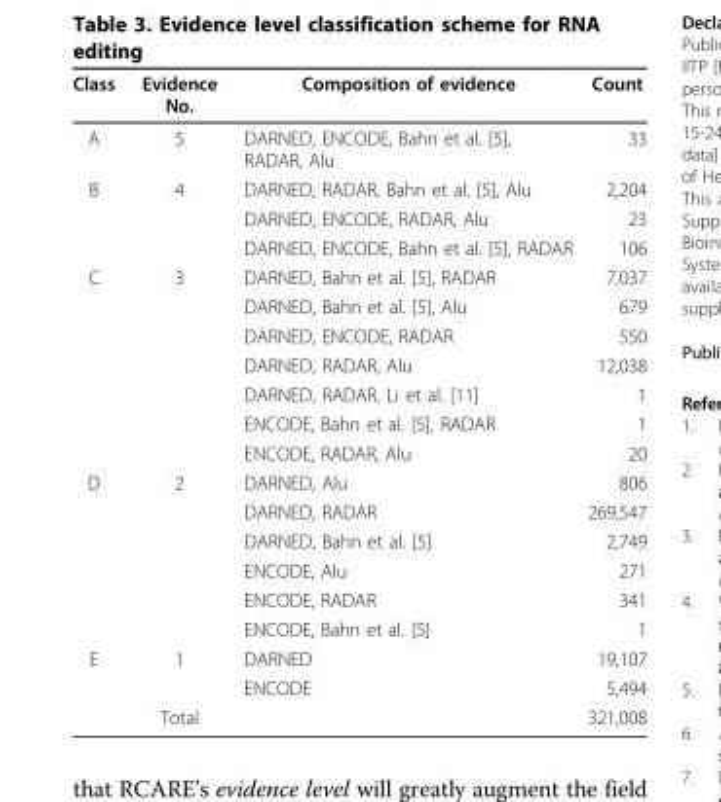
<table><thead><tr><td>Class</td><td>Evidence No.</td><td>Composition of evidence</td><td>Count</td></tr></thead><tbody><tr><td>A</td><td>5</td><td>DARNED, ENCODE, Bahn et al. [5], RADAR, Alu</td><td>33</td></tr><tr><td rowspan="3">B</td><td>4</td><td>DARNED, RADAR, Bahn et al. [5], Alu</td><td>2,204</td></tr><tr><td></td><td>DARNED, ENCODE, RADAR, Alu</td><td>23</td></tr><tr><td></td><td>DARNED, ENCODE, Bahn et al. [5], RADAR</td><td>106</td></tr><tr><td rowspan="7">C</td><td>3</td><td>DARNED, Bahn et al. [5], RADAR</td><td>7,037</td></tr><tr><td></td><td>DARNED, Bahn et al. [5], Alu</td><td>679</td></tr><tr><td></td><td>DARNED, ENCODE, RADAR</td><td>550</td></tr><tr><td></td><td>DARNED, RADAR, Alu</td><td>12,038</td></tr><tr><td></td><td>DARNED, RADAR, Li et al. [11]</td><td>1</td></tr><tr><td></td><td>ENCODE, Bahn et al. [5], RADAR</td><td>1</td></tr><tr><td></td><td>ENCODE, RADAR, Alu</td><td>20</td></tr><tr><td rowspan="6">D</td><td>2</td><td>DARNED, Alu</td><td>806</td></tr><tr><td></td><td>DARNED, RADAR</td><td>269,547</td></tr><tr><td></td><td>DARNED, Bahn et al. [5]</td><td>2,749</td></tr><tr><td></td><td>ENCODE, Alu</td><td>271</td></tr><tr><td></td><td>ENCODE, RADAR</td><td>341</td></tr><tr><td></td><td>ENCODE, Bahn et al. [5]</td><td>1</td></tr><tr><td rowspan="3">E</td><td>1</td><td>DARNED</td><td>19,107</td></tr><tr><td></td><td>ENCODE</td><td>5,494</td></tr><tr><td>Total</td><td></td><td>321,008</td></tr></tbody></table>